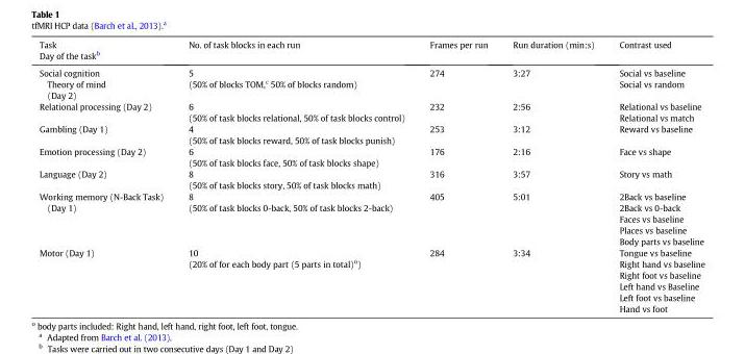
<table><thead><tr><td>Task Day of the task<sup>b</sup></td><td>No. of task blocks in each run</td><td>Frames per run</td><td>Run duration (min:s)</td><td>Contrast used</td></tr></thead><tbody><tr><td>Social cognition Theory of mind (Day 2)</td><td>5 (50% of blocks TOM,<sup>c</sup> 50% of blocks random)</td><td>274</td><td>3:27</td><td>Social vs baseline Social vs random</td></tr><tr><td>Relational processing (Day 2)</td><td>6 (50% of task blocks relational, 50% of task blocks control)</td><td>232</td><td>2:56</td><td>Relational vs baseline Relational vs match</td></tr><tr><td>Gambling (Day 1)</td><td>4 (50% of task blocks reward, 50% of task blocks punish)</td><td>253</td><td>3:12</td><td>Reward vs baseline</td></tr><tr><td>Emotion processing (Day 2)</td><td>6 (50% of task blocks face, 50% of task blocks shape)</td><td>176</td><td>2:16</td><td>Face vs shape</td></tr><tr><td>Language (Day 2)</td><td>8 (50% of task blocks story, 50% of task blocks math)</td><td>316</td><td>3:57</td><td>Story vs math</td></tr><tr><td>Working memory (N-Back Task) (Day 1)</td><td>8 (50% of task blocks 0-back, 50% of task blocks 2-back)</td><td>405</td><td>5:01</td><td>2Back vs baseline 2Back vs 0-back Faces vs baseline Places vs baseline Body parts vs baseline</td></tr><tr><td>Motor (Day 1)</td><td>10 (20% of for each body part (5 parts in total)<sup>o</sup>)</td><td>284</td><td>3:34</td><td>Tongue vs baseline Right hand vs baseline Right foot vs baseline Left hand vs Baseline Left foot vs baseline Hand vs foot</td></tr></tbody></table>